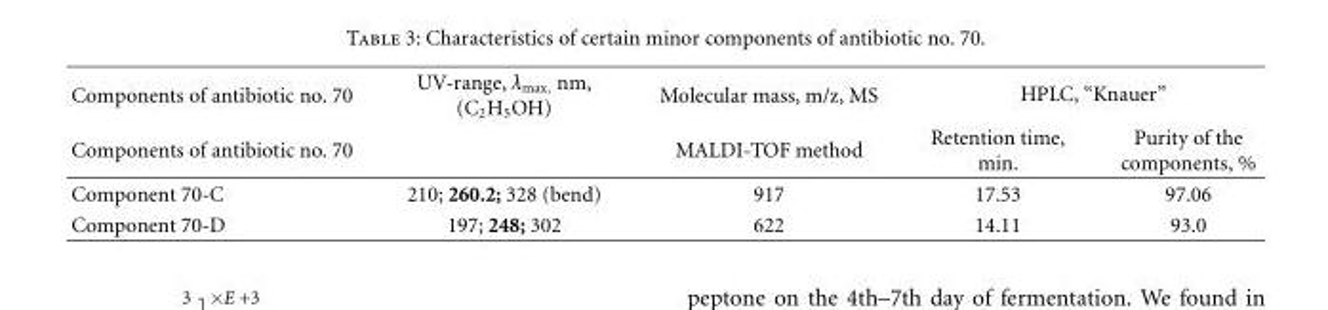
<table><thead><tr><td rowspan="2">Components of antibiotic no. 70 Components of antibiotic no. 70</td><td rowspan="2">UV-range, λ<sub>max,</sub> nm, (C<sub>2</sub>H<sub>5</sub>OH)</td><td rowspan="2">Molecular mass, m/z, MS MALDI-TOF method</td><td colspan="2">HPLC, “Knauer”</td></tr><tr><td>Retention time, min.</td><td>Purity of the components, %</td></tr></thead><tbody><tr><td>Component 70-C</td><td>210; 260.2; 328 (bend)</td><td>917</td><td>17.53</td><td>97.06</td></tr><tr><td>Component 70-D</td><td>197; 248; 302</td><td>622</td><td>14.11</td><td>93.0</td></tr></tbody></table>